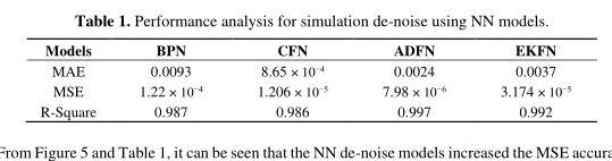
<table><thead><tr><td>Models</td><td>BPN</td><td>CFN</td><td>ADFN</td><td>EKFN</td></tr></thead><tbody><tr><td>MAE</td><td>0.0093</td><td>8.65 × 10<sup>−4</sup></td><td>0.0024</td><td>0.0037</td></tr><tr><td>MSE</td><td>1.22 × 10<sup>−4</sup></td><td>1.206 × 10<sup>−5</sup></td><td>7.98 × 10<sup>−6</sup></td><td>3.174 × 10<sup>−5</sup></td></tr><tr><td>R-Square</td><td>0.987</td><td>0.986</td><td>0.997</td><td>0.992</td></tr></tbody></table>